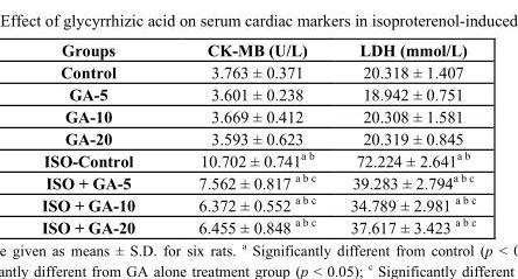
<table><thead><tr><td>Groups</td><td>CK-MB (U/L)</td><td>LDH (mmol/L)</td></tr></thead><tbody><tr><td>Control</td><td>3.763 ± 0.371</td><td>20.318 ± 1.407</td></tr><tr><td>GA-5</td><td>3.601 ± 0.238</td><td>18.942 ± 0.751</td></tr><tr><td>GA-10</td><td>3.669 ± 0.412</td><td>20.308 ± 1.581</td></tr><tr><td>GA-20</td><td>3.593 ± 0.623</td><td>20.319 ± 0.845</td></tr><tr><td>ISO-Control</td><td>10.702 ± 0.741<sup>a b</sup></td><td>72.224 ± 2.641<sup>a b</sup></td></tr><tr><td>ISO + GA-5</td><td>7.562 ± 0.817 a b c</td><td>39.283 ± 2.794<sup>a b c</sup></td></tr><tr><td>ISO + GA-10</td><td>6.372 ± 0.552 a b c</td><td>34.789 ± 2.981 a b c</td></tr><tr><td>ISO + GA-20</td><td>6.455 ± 0.848 a b c</td><td>37.617 ± 3.423 a b c</td></tr></tbody></table>